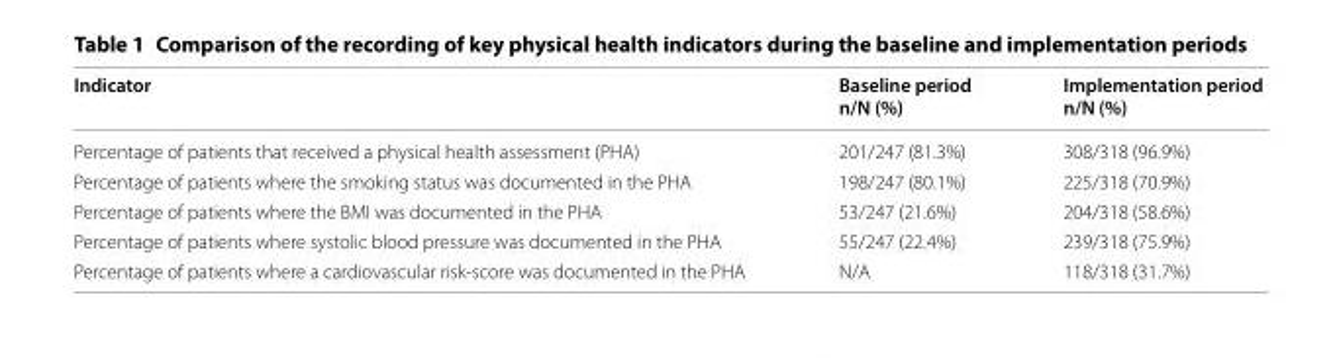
<table><thead><tr><td>Indicator</td><td>Baseline period n/N (%)</td><td>Implementation period n/N (%)</td></tr></thead><tbody><tr><td>Percentage of patients that received a physical health assessment (PHA)</td><td>201/247 (81.3%)</td><td>308/318 (96.9%)</td></tr><tr><td>Percentage of patients where the smoking status was documented in the PHA</td><td>198/247 (80.1%)</td><td>225/318 (70.9%)</td></tr><tr><td>Percentage of patients where the BMI was documented in the PHA</td><td>53/247 (21.6%)</td><td>204/318 (58.6%)</td></tr><tr><td>Percentage of patients where systolic blood pressure was documented in the PHA</td><td>55/247 (22.4%)</td><td>239/318 (75.9%)</td></tr><tr><td>Percentage of patients where a cardiovascular risk-score was documented in the PHA</td><td>N/A</td><td>118/318 (31.7%)</td></tr></tbody></table>